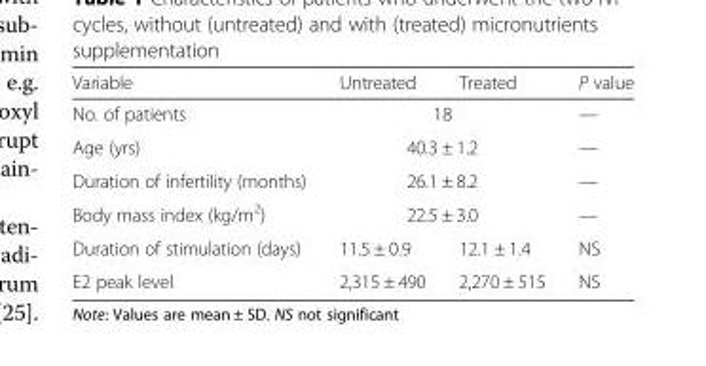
<table><thead><tr><td>Variable</td><td>Untreated</td><td>Treated</td><td>P value</td></tr></thead><tbody><tr><td>No. of patients</td><td colspan="2">18</td><td>—</td></tr><tr><td>Age (yrs)</td><td colspan="2">40.3 ± 1.2</td><td>—</td></tr><tr><td>Duration of infertility (months)</td><td colspan="2">26.1 ± 8.2</td><td>—</td></tr><tr><td>Body mass index (kg/m<sup>2</sup>)</td><td colspan="2">22.5 ± 3.0</td><td>—</td></tr><tr><td>Duration of stimulation (days)</td><td>11.5 ± 0.9</td><td>12.1 ± 1.4</td><td>NS</td></tr><tr><td>E2 peak level</td><td>2,315 ± 490</td><td>2,270 ± 515</td><td>NS</td></tr></tbody></table>